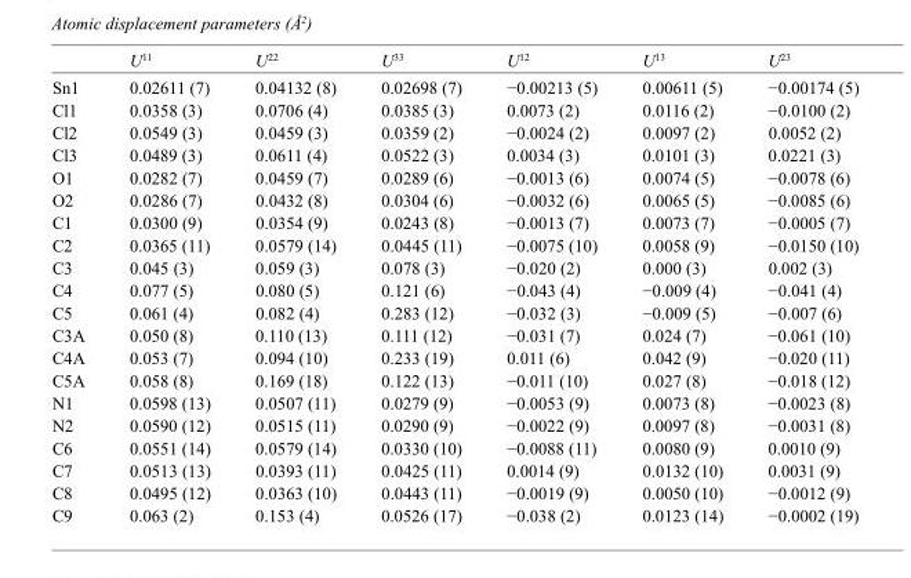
<table><thead><tr><td></td><td>U<sup>11</sup></td><td>U<sup>22</sup></td><td>U<sup>33</sup></td><td>U<sup>12</sup></td><td>U<sup>13</sup></td><td>U<sup>23</sup></td></tr></thead><tbody><tr><td>Sn1</td><td>0.02611 (7)</td><td>0.04132 (8)</td><td>0.02698 (7)</td><td>−0.00213 (5)</td><td>0.00611 (5)</td><td>−0.00174 (5)</td></tr><tr><td>Cl1</td><td>0.0358 (3)</td><td>0.0706 (4)</td><td>0.0385 (3)</td><td>0.0073 (2)</td><td>0.0116 (2)</td><td>−0.0100 (2)</td></tr><tr><td>Cl2</td><td>0.0549 (3)</td><td>0.0459 (3)</td><td>0.0359 (2)</td><td>−0.0024 (2)</td><td>0.0097 (2)</td><td>0.0052 (2)</td></tr><tr><td>Cl3</td><td>0.0489 (3)</td><td>0.0611 (4)</td><td>0.0522 (3)</td><td>0.0034 (3)</td><td>0.0101 (3)</td><td>0.0221 (3)</td></tr><tr><td>O1</td><td>0.0282 (7)</td><td>0.0459 (7)</td><td>0.0289 (6)</td><td>−0.0013 (6)</td><td>0.0074 (5)</td><td>−0.0078 (6)</td></tr><tr><td>O2</td><td>0.0286 (7)</td><td>0.0432 (8)</td><td>0.0304 (6)</td><td>−0.0032 (6)</td><td>0.0065 (5)</td><td>−0.0085 (6)</td></tr><tr><td>C1</td><td>0.0300 (9)</td><td>0.0354 (9)</td><td>0.0243 (8)</td><td>−0.0013 (7)</td><td>0.0073 (7)</td><td>−0.0005 (7)</td></tr><tr><td>C2</td><td>0.0365 (11)</td><td>0.0579 (14)</td><td>0.0445 (11)</td><td>−0.0075 (10)</td><td>0.0058 (9)</td><td>−0.0150 (10)</td></tr><tr><td>C3</td><td>0.045 (3)</td><td>0.059 (3)</td><td>0.078 (3)</td><td>−0.020 (2)</td><td>0.000 (3)</td><td>0.002 (3)</td></tr><tr><td>C4</td><td>0.077 (5)</td><td>0.080 (5)</td><td>0.121 (6)</td><td>−0.043 (4)</td><td>−0.009 (4)</td><td>−0.041 (4)</td></tr><tr><td>C5</td><td>0.061 (4)</td><td>0.082 (4)</td><td>0.283 (12)</td><td>−0.032 (3)</td><td>−0.009 (5)</td><td>−0.007 (6)</td></tr><tr><td>C3A</td><td>0.050 (8)</td><td>0.110 (13)</td><td>0.111 (12)</td><td>−0.031 (7)</td><td>0.024 (7)</td><td>−0.061 (10)</td></tr><tr><td>C4A</td><td>0.053 (7)</td><td>0.094 (10)</td><td>0.233 (19)</td><td>0.011 (6)</td><td>0.042 (9)</td><td>−0.020 (11)</td></tr><tr><td>C5A</td><td>0.058 (8)</td><td>0.169 (18)</td><td>0.122 (13)</td><td>−0.011 (10)</td><td>0.027 (8)</td><td>−0.018 (12)</td></tr><tr><td>N1</td><td>0.0598 (13)</td><td>0.0507 (11)</td><td>0.0279 (9)</td><td>−0.0053 (9)</td><td>0.0073 (8)</td><td>−0.0023 (8)</td></tr><tr><td>N2</td><td>0.0590 (12)</td><td>0.0515 (11)</td><td>0.0290 (9)</td><td>−0.0022 (9)</td><td>0.0097 (8)</td><td>−0.0031 (8)</td></tr><tr><td>C6</td><td>0.0551 (14)</td><td>0.0579 (14)</td><td>0.0330 (10)</td><td>−0.0088 (11)</td><td>0.0080 (9)</td><td>0.0010 (9)</td></tr><tr><td>C7</td><td>0.0513 (13)</td><td>0.0393 (11)</td><td>0.0425 (11)</td><td>0.0014 (9)</td><td>0.0132 (10)</td><td>0.0031 (9)</td></tr><tr><td>C8</td><td>0.0495 (12)</td><td>0.0363 (10)</td><td>0.0443 (11)</td><td>−0.0019 (9)</td><td>0.0050 (10)</td><td>−0.0012 (9)</td></tr><tr><td>C9</td><td>0.063 (2)</td><td>0.153 (4)</td><td>0.0526 (17)</td><td>−0.038 (2)</td><td>0.0123 (14)</td><td>−0.0002 (19)</td></tr></tbody></table>